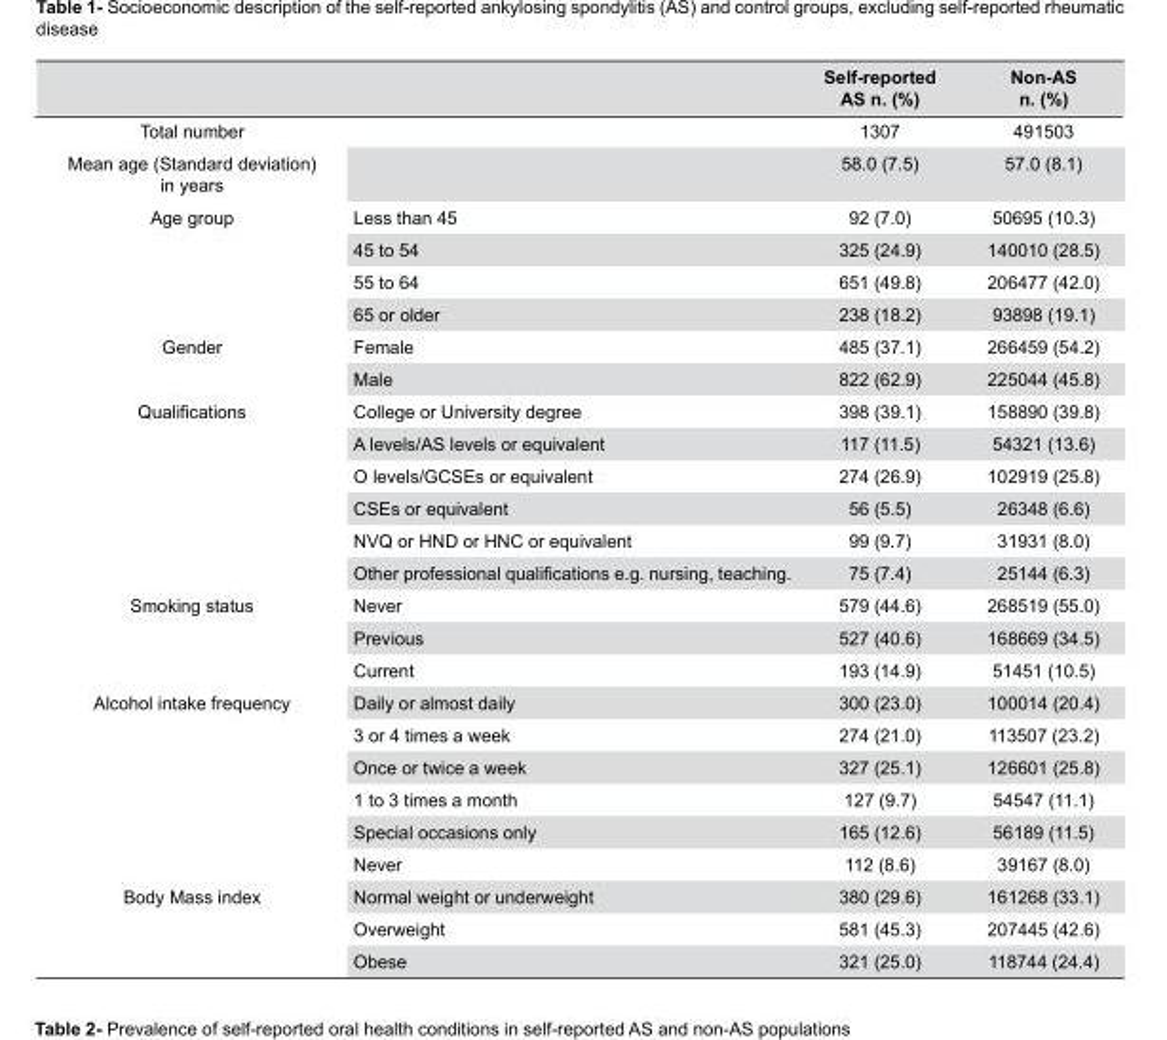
<table><thead><tr><td></td><td></td><td>Self-reported AS n. (%)</td><td>Non-AS n. (%)</td></tr></thead><tbody><tr><td>Total number</td><td></td><td>1307</td><td>491503</td></tr><tr><td>Mean age (Standard deviation) in years</td><td></td><td>58.0 (7.5)</td><td>57.0 (8.1)</td></tr><tr><td rowspan="4">Age group</td><td>Less than 45</td><td>92 (7.0)</td><td>50695 (10.3)</td></tr><tr><td>45 to 54</td><td>325 (24.9)</td><td>140010 (28.5)</td></tr><tr><td>55 to 64</td><td>651 (49.8)</td><td>206477 (42.0)</td></tr><tr><td>65 or older</td><td>238 (18.2)</td><td>93898 (19.1)</td></tr><tr><td rowspan="2">Gender</td><td>Female</td><td>485 (37.1)</td><td>266459 (54.2)</td></tr><tr><td>Male</td><td>822 (62.9)</td><td>225044 (45.8)</td></tr><tr><td rowspan="6">Qualifications</td><td>College or University degree</td><td>398 (39.1)</td><td>158890 (39.8)</td></tr><tr><td>A levels/AS levels or equivalent</td><td>117 (11.5)</td><td>54321 (13.6)</td></tr><tr><td>O levels/GCSEs or equivalent</td><td>274 (26.9)</td><td>102919 (25.8)</td></tr><tr><td>CSEs or equivalent</td><td>56 (5.5)</td><td>26348 (6.6)</td></tr><tr><td>NVQ or HND or HNC or equivalent</td><td>99 (9.7)</td><td>31931 (8.0)</td></tr><tr><td>Other professional qualifications e.g. nursing, teaching.</td><td>75 (7.4)</td><td>25144 (6.3)</td></tr><tr><td rowspan="3">Smoking status</td><td>Never</td><td>579 (44.6)</td><td>268519 (55.0)</td></tr><tr><td>Previous</td><td>527 (40.6)</td><td>168669 (34.5)</td></tr><tr><td>Current</td><td>193 (14.9)</td><td>51451 (10.5)</td></tr><tr><td rowspan="6">Alcohol intake frequency</td><td>Daily or almost daily</td><td>300 (23.0)</td><td>100014 (20.4)</td></tr><tr><td>3 or 4 times a week</td><td>274 (21.0)</td><td>113507 (23.2)</td></tr><tr><td>Once or twice a week</td><td>327 (25.1)</td><td>126601 (25.8)</td></tr><tr><td>1 to 3 times a month</td><td>127 (9.7)</td><td>54547 (11.1)</td></tr><tr><td>Special occasions only</td><td>165 (12.6)</td><td>56189 (11.5)</td></tr><tr><td>Never</td><td>112 (8.6)</td><td>39167 (8.0)</td></tr><tr><td rowspan="3">Body Mass index</td><td>Normal weight or underweight</td><td>380 (29.6)</td><td>161268 (33.1)</td></tr><tr><td>Overweight</td><td>581 (45.3)</td><td>207445 (42.6)</td></tr><tr><td>Obese</td><td>321 (25.0)</td><td>118744 (24.4)</td></tr></tbody></table>